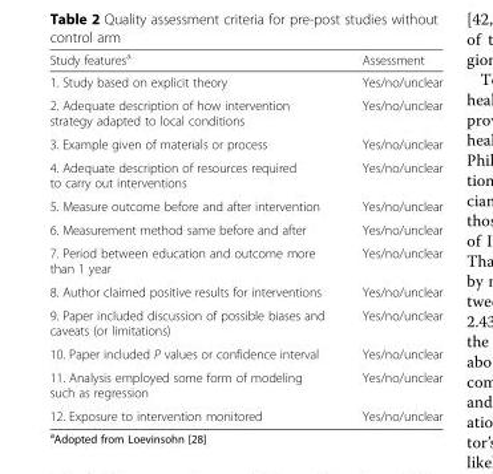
<table><thead><tr><td>Study features<sup>a</sup></td><td>Assessment</td></tr></thead><tbody><tr><td>1. Study based on explicit theory</td><td>Yes/no/unclear</td></tr><tr><td>2. Adequate description of how intervention strategy adapted to local conditions</td><td>Yes/no/unclear</td></tr><tr><td>3. Example given of materials or process</td><td>Yes/no/unclear</td></tr><tr><td>4. Adequate description of resources required to carry out interventions</td><td>Yes/no/unclear</td></tr><tr><td>5. Measure outcome before and after intervention</td><td>Yes/no/unclear</td></tr><tr><td>6. Measurement method same before and after</td><td>Yes/no/unclear</td></tr><tr><td>7. Period between education and outcome more than 1 year</td><td>Yes/no/unclear</td></tr><tr><td>8. Author claimed positive results for interventions</td><td>Yes/no/unclear</td></tr><tr><td>9. Paper included discussion of possible biases and caveats (or limitations)</td><td>Yes/no/unclear</td></tr><tr><td>10. Paper included P values or confidence interval</td><td>Yes/no/unclear</td></tr><tr><td>11. Analysis employed some form of modeling such as regression</td><td>Yes/no/unclear</td></tr><tr><td>12. Exposure to intervention monitored</td><td>Yes/no/unclear</td></tr></tbody></table>